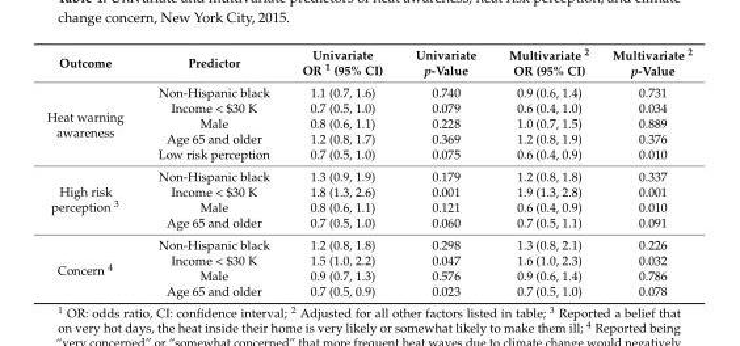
<table><thead><tr><td>Outcome</td><td>Predictor</td><td>Univariate OR <sup>1</sup> (95% CI)</td><td>Univariate p-Value</td><td>Multivariate <sup>2</sup> OR (95% CI)</td><td>Multivariate <sup>2</sup> p-Value</td></tr></thead><tbody><tr><td rowspan="5">Heat warning awareness</td><td>Non-Hispanic black</td><td>1.1 (0.7, 1.6)</td><td>0.740</td><td>0.9 (0.6, 1.4)</td><td>0.731</td></tr><tr><td>Income &lt; $30 K</td><td>0.7 (0.5, 1.0)</td><td>0.079</td><td>0.6 (0.4, 1.0)</td><td>0.034</td></tr><tr><td>Male</td><td>0.8 (0.6, 1.1)</td><td>0.228</td><td>1.0 (0.7, 1.5)</td><td>0.889</td></tr><tr><td>Age 65 and older</td><td>1.2 (0.8, 1.7)</td><td>0.369</td><td>1.2 (0.8, 1.9)</td><td>0.376</td></tr><tr><td>Low risk perception</td><td>0.7 (0.5, 1.0)</td><td>0.075</td><td>0.6 (0.4, 0.9)</td><td>0.010</td></tr><tr><td rowspan="4">High risk perception <sup>3</sup></td><td>Non-Hispanic black</td><td>1.3 (0.9, 1.9)</td><td>0.179</td><td>1.2 (0.8, 1.8)</td><td>0.337</td></tr><tr><td>Income &lt; $30 K</td><td>1.8 (1.3, 2.6)</td><td>0.001</td><td>1.9 (1.3, 2.8)</td><td>0.001</td></tr><tr><td>Male</td><td>0.8 (0.6, 1.1)</td><td>0.121</td><td>0.6 (0.4, 0.9)</td><td>0.010</td></tr><tr><td>Age 65 and older</td><td>0.7 (0.5, 1.0)</td><td>0.060</td><td>0.7 (0.5, 1.1)</td><td>0.091</td></tr><tr><td rowspan="4">Concern <sup>4</sup></td><td>Non-Hispanic black</td><td>1.2 (0.8, 1.8)</td><td>0.298</td><td>1.3 (0.8, 2.1)</td><td>0.226</td></tr><tr><td>Income &lt; $30 K</td><td>1.5 (1.0, 2.2)</td><td>0.047</td><td>1.6 (1.0, 2.3)</td><td>0.032</td></tr><tr><td>Male</td><td>0.9 (0.7, 1.3)</td><td>0.576</td><td>0.9 (0.6, 1.4)</td><td>0.786</td></tr><tr><td>Age 65 and older</td><td>0.7 (0.5, 0.9)</td><td>0.023</td><td>0.7 (0.5, 1.0)</td><td>0.078</td></tr></tbody></table>